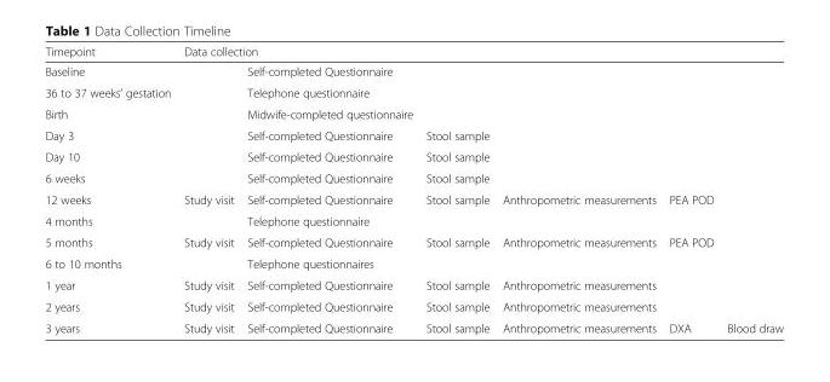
<table><thead><tr><td rowspan="2">Timepoint Baseline</td><td colspan="6">Data collection</td></tr><tr><td></td><td>Self-completed Questionnaire</td><td></td><td></td><td></td><td></td></tr></thead><tbody><tr><td>36 to 37 weeks’ gestation</td><td></td><td>Telephone questionnaire</td><td></td><td></td><td></td><td></td></tr><tr><td>Birth</td><td></td><td>Midwife-completed questionnaire</td><td></td><td></td><td></td><td></td></tr><tr><td>Day 3</td><td></td><td>Self-completed Questionnaire</td><td>Stool sample</td><td></td><td></td><td></td></tr><tr><td>Day 10</td><td></td><td>Self-completed Questionnaire</td><td>Stool sample</td><td></td><td></td><td></td></tr><tr><td>6 weeks</td><td></td><td>Self-completed Questionnaire</td><td>Stool sample</td><td></td><td></td><td></td></tr><tr><td>12 weeks</td><td>Study visit</td><td>Self-completed Questionnaire</td><td>Stool sample</td><td>Anthropometric measurements</td><td>PEA POD</td><td></td></tr><tr><td>4 months</td><td></td><td>Telephone questionnaire</td><td></td><td></td><td></td><td></td></tr><tr><td>5 months</td><td>Study visit</td><td>Self-completed Questionnaire</td><td>Stool sample</td><td>Anthropometric measurements</td><td>PEA POD</td><td></td></tr><tr><td>6 to 10 months</td><td></td><td>Telephone questionnaires</td><td></td><td></td><td></td><td></td></tr><tr><td>1 year</td><td>Study visit</td><td>Self-completed Questionnaire</td><td>Stool sample</td><td>Anthropometric measurements</td><td></td><td></td></tr><tr><td>2 years</td><td>Study visit</td><td>Self-completed Questionnaire</td><td>Stool sample</td><td>Anthropometric measurements</td><td></td><td></td></tr><tr><td>3 years</td><td>Study visit</td><td>Self-completed Questionnaire</td><td>Stool sample</td><td>Anthropometric measurements</td><td>DXA</td><td>Blood draw</td></tr></tbody></table>